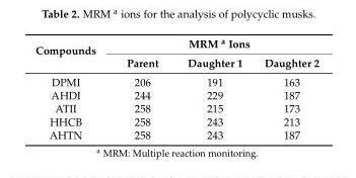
<table><thead><tr><td rowspan="2">Compounds</td><td colspan="3">MRM <sup>a</sup> Ions</td></tr><tr><td>Parent</td><td>Daughter 1</td><td>Daughter 2</td></tr></thead><tbody><tr><td>DPMI</td><td>206</td><td>191</td><td>163</td></tr><tr><td>AHDI</td><td>244</td><td>229</td><td>187</td></tr><tr><td>ATII</td><td>258</td><td>215</td><td>173</td></tr><tr><td>HHCB</td><td>258</td><td>243</td><td>213</td></tr><tr><td>AHTN</td><td>258</td><td>243</td><td>187</td></tr></tbody></table>